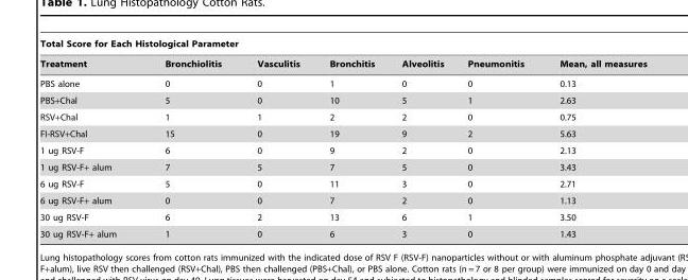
<table><thead><tr><td colspan="7">Total Score for Each Histological Parameter</td></tr><tr><td>Treatment</td><td>Bronchiolitis</td><td>Vasculitis</td><td>Bronchitis</td><td>Alveolitis</td><td>Pneumonitis</td><td>Mean, all measures</td></tr></thead><tbody><tr><td>PBS alone</td><td>0</td><td>0</td><td>1</td><td>0</td><td>0</td><td>0.13</td></tr><tr><td>PBS+Chal</td><td>5</td><td>0</td><td>10</td><td>5</td><td>1</td><td>2.63</td></tr><tr><td>RSV+Chal</td><td>1</td><td>1</td><td>2</td><td>2</td><td>0</td><td>0.75</td></tr><tr><td>FI-RSV+Chal</td><td>15</td><td>0</td><td>19</td><td>9</td><td>2</td><td>5.63</td></tr><tr><td>1 ug RSV-F</td><td>6</td><td>0</td><td>9</td><td>2</td><td>0</td><td>2.13</td></tr><tr><td>1 ug RSV-F+ alum</td><td>7</td><td>5</td><td>7</td><td>5</td><td>0</td><td>3.43</td></tr><tr><td>6 ug RSV-F</td><td>5</td><td>0</td><td>11</td><td>3</td><td>0</td><td>2.71</td></tr><tr><td>6 ug RSV-F+ alum</td><td>0</td><td>0</td><td>7</td><td>2</td><td>0</td><td>1.13</td></tr><tr><td>30 ug RSV-F</td><td>6</td><td>2</td><td>13</td><td>6</td><td>1</td><td>3.50</td></tr><tr><td>30 ug RSV-F+ alum</td><td>1</td><td>0</td><td>6</td><td>3</td><td>0</td><td>1.43</td></tr></tbody></table>